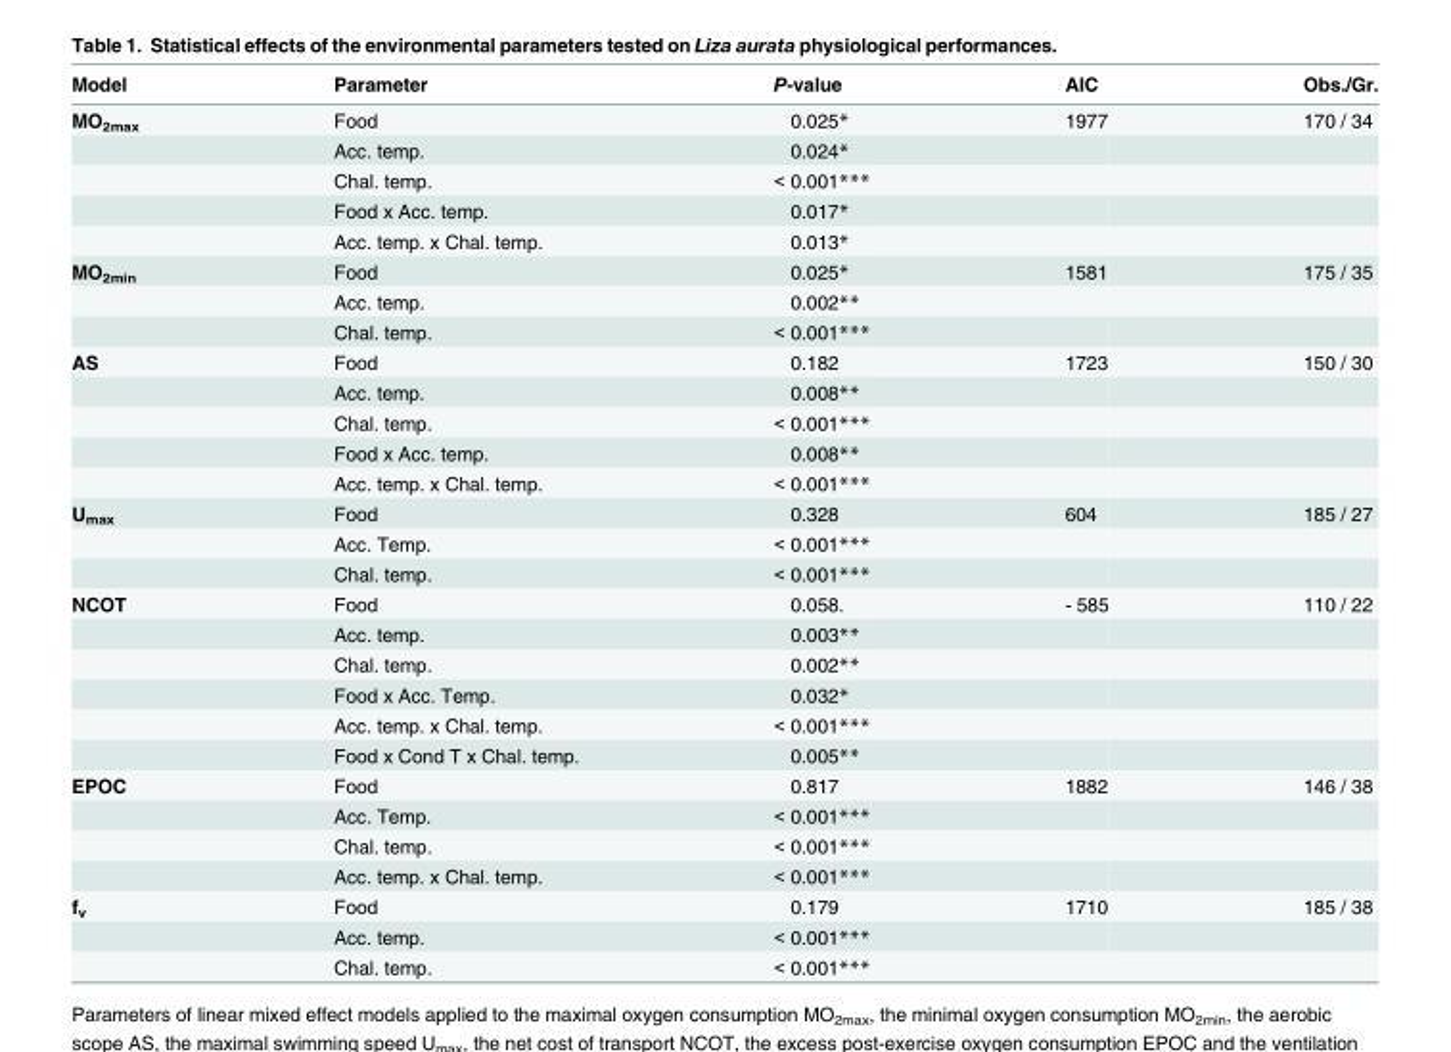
<table><thead><tr><td>Model</td><td>Parameter</td><td>P-value</td><td>AIC</td><td>Obs./Gr.</td></tr></thead><tbody><tr><td rowspan="5">MO<sub>2max</sub></td><td>Food</td><td>0.025*</td><td>1977</td><td>170 / 34</td></tr><tr><td>Acc. temp.</td><td>0.024*</td><td></td><td></td></tr><tr><td>Chal. temp.</td><td>&lt; 0.001***</td><td></td><td></td></tr><tr><td>Food x Acc. temp.</td><td>0.017*</td><td></td><td></td></tr><tr><td>Acc. temp. x Chal. temp.</td><td>0.013*</td><td></td><td></td></tr><tr><td rowspan="3">MO<sub>2min</sub></td><td>Food</td><td>0.025*</td><td>1581</td><td>175 / 35</td></tr><tr><td>Acc. temp.</td><td>0.002**</td><td></td><td></td></tr><tr><td>Chal. temp.</td><td>&lt; 0.001***</td><td></td><td></td></tr><tr><td rowspan="5">AS</td><td>Food</td><td>0.182</td><td>1723</td><td>150 / 30</td></tr><tr><td>Acc. temp.</td><td>0.008**</td><td></td><td></td></tr><tr><td>Chal. temp.</td><td>&lt; 0.001***</td><td></td><td></td></tr><tr><td>Food x Acc. temp.</td><td>0.008**</td><td></td><td></td></tr><tr><td>Acc. temp. x Chal. temp.</td><td>&lt; 0.001***</td><td></td><td></td></tr><tr><td rowspan="3">U<sub>max</sub></td><td>Food</td><td>0.328</td><td>604</td><td>185 / 27</td></tr><tr><td>Acc. Temp.</td><td>&lt; 0.001***</td><td></td><td></td></tr><tr><td>Chal. temp.</td><td>&lt; 0.001***</td><td></td><td></td></tr><tr><td rowspan="6">NCOT</td><td>Food</td><td>0.058.</td><td>- 585</td><td>110 / 22</td></tr><tr><td>Acc. temp.</td><td>0.003**</td><td></td><td></td></tr><tr><td>Chal. temp.</td><td>0.002**</td><td></td><td></td></tr><tr><td>Food x Acc. Temp.</td><td>0.032*</td><td></td><td></td></tr><tr><td>Acc. temp. x Chal. temp.</td><td>&lt; 0.001***</td><td></td><td></td></tr><tr><td>Food x Cond T x Chal. temp.</td><td>0.005**</td><td></td><td></td></tr><tr><td rowspan="4">EPOC</td><td>Food</td><td>0.817</td><td>1882</td><td>146 / 38</td></tr><tr><td>Acc. Temp.</td><td>&lt; 0.001***</td><td></td><td></td></tr><tr><td>Chal. temp.</td><td>&lt; 0.001***</td><td></td><td></td></tr><tr><td>Acc. temp. x Chal. temp.</td><td>&lt; 0.001***</td><td></td><td></td></tr><tr><td rowspan="3">f<sub>v</sub></td><td>Food</td><td>0.179</td><td>1710</td><td>185 / 38</td></tr><tr><td>Acc. temp.</td><td>&lt; 0.001***</td><td></td><td></td></tr><tr><td>Chal. temp.</td><td>&lt; 0.001***</td><td></td><td></td></tr></tbody></table>